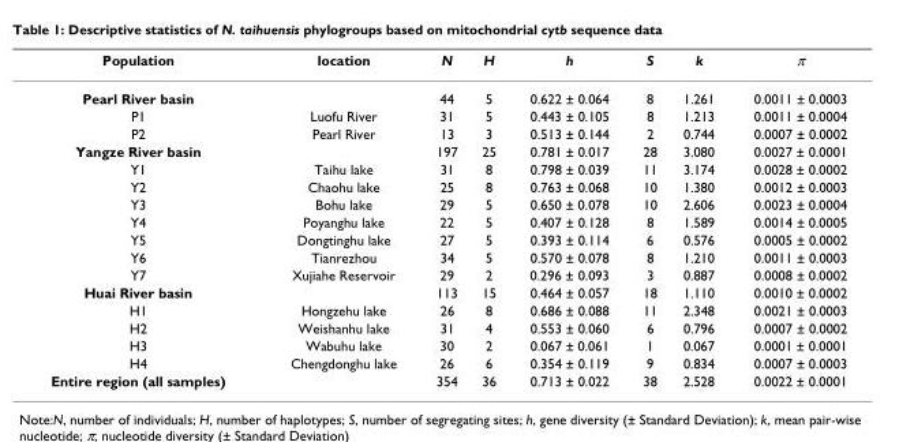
<table><thead><tr><td>Population</td><td>location</td><td>N</td><td>H</td><td>h</td><td>S</td><td>k</td><td>π</td></tr></thead><tbody><tr><td>Pearl River basin</td><td></td><td>44</td><td>5</td><td>0.622 ± 0.064</td><td>8</td><td>1.261</td><td>0.0011 ± 0.0003</td></tr><tr><td>P1</td><td>Luofu River</td><td>31</td><td>5</td><td>0.443 ± 0.105</td><td>8</td><td>1.213</td><td>0.0011 ± 0.0004</td></tr><tr><td>P2</td><td>Pearl River</td><td>13</td><td>3</td><td>0.513 ± 0.144</td><td>2</td><td>0.744</td><td>0.0007 ± 0.0002</td></tr><tr><td>Yangze River basin</td><td></td><td>197</td><td>25</td><td>0.781 ± 0.017</td><td>28</td><td>3.080</td><td>0.0027 ± 0.0001</td></tr><tr><td>Y1</td><td>Taihu lake</td><td>31</td><td>8</td><td>0.798 ± 0.039</td><td>11</td><td>3.174</td><td>0.0028 ± 0.0002</td></tr><tr><td>Y2</td><td>Chaohu lake</td><td>25</td><td>8</td><td>0.763 ± 0.068</td><td>10</td><td>1.380</td><td>0.0012 ± 0.0003</td></tr><tr><td>Y3</td><td>Bohu lake</td><td>29</td><td>5</td><td>0.650 ± 0.078</td><td>10</td><td>2.606</td><td>0.0023 ± 0.0004</td></tr><tr><td>Y4</td><td>Poyanghu lake</td><td>22</td><td>5</td><td>0.407 ± 0.128</td><td>8</td><td>1.589</td><td>0.0014 ± 0.0005</td></tr><tr><td>Y5</td><td>Dongtinghu lake</td><td>27</td><td>5</td><td>0.393 ± 0.114</td><td>6</td><td>0.576</td><td>0.0005 ± 0.0002</td></tr><tr><td>Y6</td><td>Tianrezhou</td><td>34</td><td>5</td><td>0.570 ± 0.078</td><td>8</td><td>1.210</td><td>0.0011 ± 0.0003</td></tr><tr><td>Y7</td><td>Xujiahe Reservoir</td><td>29</td><td>2</td><td>0.296 ± 0.093</td><td>3</td><td>0.887</td><td>0.0008 ± 0.0002</td></tr><tr><td>Huai River basin</td><td></td><td>113</td><td>15</td><td>0.464 ± 0.057</td><td>18</td><td>1.110</td><td>0.0010 ± 0.0002</td></tr><tr><td>H1</td><td>Hongzehu lake</td><td>26</td><td>8</td><td>0.686 ± 0.088</td><td>11</td><td>2.348</td><td>0.0021 ± 0.0003</td></tr><tr><td>H2</td><td>Weishanhu lake</td><td>31</td><td>4</td><td>0.553 ± 0.060</td><td>6</td><td>0.796</td><td>0.0007 ± 0.0002</td></tr><tr><td>H3</td><td>Wabuhu lake</td><td>30</td><td>2</td><td>0.067 ± 0.061</td><td>1</td><td>0.067</td><td>0.0001 ± 0.0001</td></tr><tr><td>H4</td><td>Chengdonghu lake</td><td>26</td><td>6</td><td>0.354 ± 0.119</td><td>9</td><td>0.834</td><td>0.0007 ± 0.0003</td></tr><tr><td>Entire region (all samples)</td><td></td><td>354</td><td>36</td><td>0.713 ± 0.022</td><td>38</td><td>2.528</td><td>0.0022 ± 0.0001</td></tr></tbody></table>